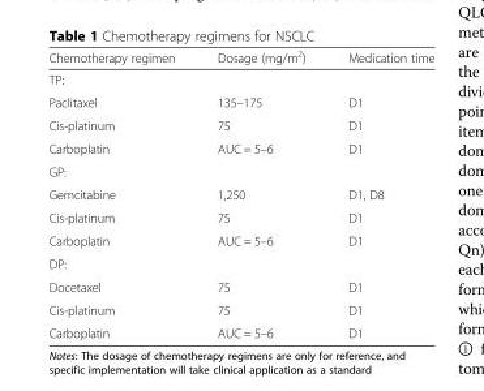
<table><thead><tr><td>Chemotherapy regimen</td><td>Dosage (mg/m<sup>2</sup>)</td><td>Medication time</td></tr></thead><tbody><tr><td colspan="3">TP:</td></tr><tr><td>Paclitaxel</td><td>135–175</td><td>D1</td></tr><tr><td>Cis-platinum</td><td>75</td><td>D1</td></tr><tr><td>Carboplatin</td><td>AUC = 5–6</td><td>D1</td></tr><tr><td colspan="3">GP:</td></tr><tr><td>Gemcitabine</td><td>1,250</td><td>D1, D8</td></tr><tr><td>Cis-platinum</td><td>75</td><td>D1</td></tr><tr><td>Carboplatin</td><td>AUC = 5–6</td><td>D1</td></tr><tr><td colspan="3">DP:</td></tr><tr><td>Docetaxel</td><td>75</td><td>D1</td></tr><tr><td>Cis-platinum</td><td>75</td><td>D1</td></tr><tr><td>Carboplatin</td><td>AUC = 5–6</td><td>D1</td></tr></tbody></table>